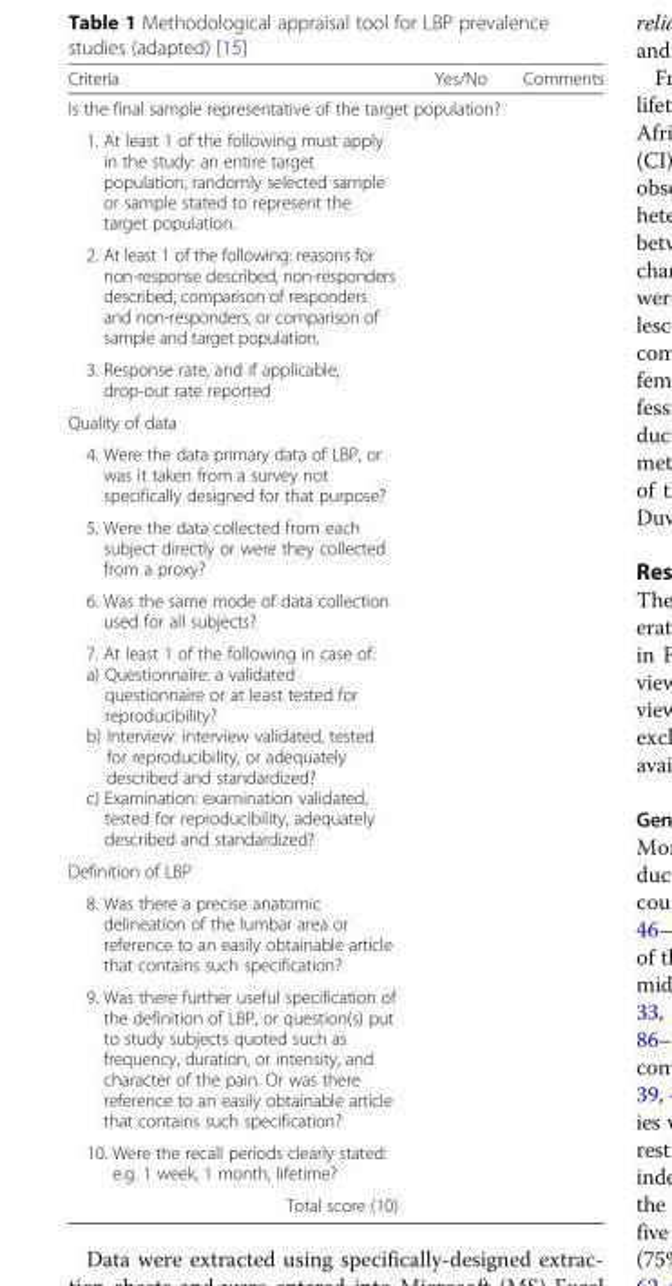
<table><thead><tr><td>Criteria</td><td>Yes/No</td><td>Comments</td></tr></thead><tbody><tr><td colspan="3">Is the final sample representative of the target population?</td></tr><tr><td colspan="3">1. At least 1 of the following must apply in the study: an entire target population, randomly selected sample or sample stated to represent the target population.</td></tr><tr><td colspan="3">2. At least 1 of the following: reasons for non-response described, non-responders described, comparison of responders and non-responders, or comparison of sample and target population.</td></tr><tr><td colspan="3">3. Response rate, and if applicable, drop-out rate reported</td></tr><tr><td colspan="3">Quality of data</td></tr><tr><td colspan="3">4. Were the data primary data of LBP, or was it taken from a survey not specifically designed for that purpose?</td></tr><tr><td colspan="3">5. Were the data collected from each subject directly or were they collected from a proxy?</td></tr><tr><td colspan="3">6. Was the same mode of data collection used for all subjects?</td></tr><tr><td colspan="3">7. At least 1 of the following in case of: a) Questionnaire: a validated questionnaire or at least tested for reproducibility? b) Interview: interview validated, tested for reproducibility, or adequately described and standardized? c) Examination: examination validated, tested for reproducibility, adequately described and standardized?</td></tr><tr><td colspan="3">Definition of LBP</td></tr><tr><td colspan="3">8. Was there a precise anatomic delineation of the lumbar area or reference to an easily obtainable article that contains such specification?</td></tr><tr><td colspan="3">9. Was there further useful specification of the definition of LBP, or question(s) put to study subjects quoted such as frequency, duration, or intensity, and character of the pain. Or was there reference to an easily obtainable article that contains such specification?</td></tr><tr><td colspan="3">10. Were the recall periods clearly stated: e.g. 1 week, 1 month, lifetime?</td></tr><tr><td>Total score (10)</td><td></td><td></td></tr></tbody></table>